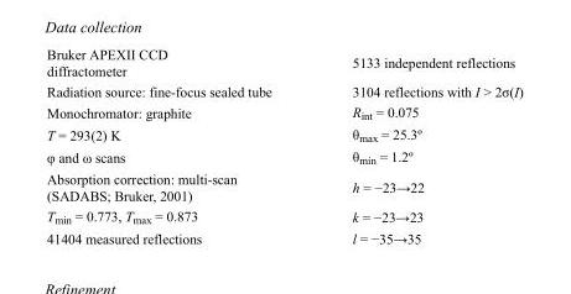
<table><tbody><tr><td>Bruker APEXII CCD diffractometer</td><td>5133 independent reflections</td></tr><tr><td>Radiation source: fine-focus sealed tube</td><td>3104 reflections with I &gt; 2σ(I)</td></tr><tr><td>Monochromator: graphite</td><td>R<sub>int</sub> = 0.075</td></tr><tr><td>T = 293(2) K</td><td>θ<sub>max</sub> = 25.3º</td></tr><tr><td>φ and ω scans</td><td>θ<sub>min</sub> = 1.2º</td></tr><tr><td>Absorption correction: multi-scan (SADABS; Bruker, 2001)</td><td>h = −23→22</td></tr><tr><td>T<sub>min</sub> = 0.773, T<sub>max</sub> = 0.873</td><td>k = −23→23</td></tr><tr><td>41404 measured reflections</td><td>l = −35→35</td></tr></tbody></table>